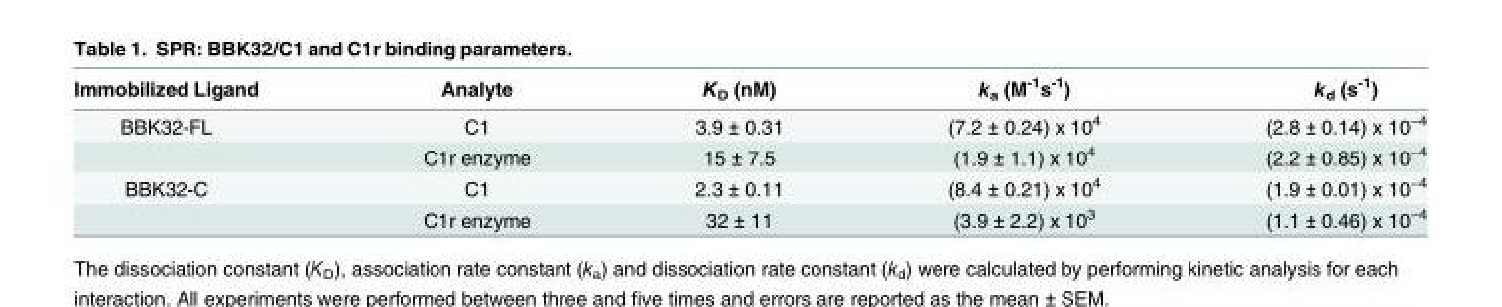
<table><thead><tr><td>Immobilized Ligand</td><td>Analyte</td><td>K<sub>D</sub> (nM)</td><td>k<sub>a</sub> (M<sup>-1</sup>s<sup>-1</sup>)</td><td>k<sub>d</sub> (s<sup>-1</sup>)</td></tr></thead><tbody><tr><td rowspan="2">BBK32-FL</td><td>C1</td><td>3.9 ± 0.31</td><td>(7.2 ± 0.24) x 10<sup>4</sup></td><td>(2.8 ± 0.14) x 10<sup>−4</sup></td></tr><tr><td>C1r enzyme</td><td>15 ± 7.5</td><td>(1.9 ± 1.1) x 10<sup>4</sup></td><td>(2.2 ± 0.85) x 10<sup>−4</sup></td></tr><tr><td rowspan="2">BBK32-C</td><td>C1</td><td>2.3 ± 0.11</td><td>(8.4 ± 0.21) x 10<sup>4</sup></td><td>(1.9 ± 0.01) x 10<sup>−4</sup></td></tr><tr><td>C1r enzyme</td><td>32 ± 11</td><td>(3.9 ± 2.2) x 10<sup>3</sup></td><td>(1.1 ± 0.46) x 10<sup>−4</sup></td></tr></tbody></table>